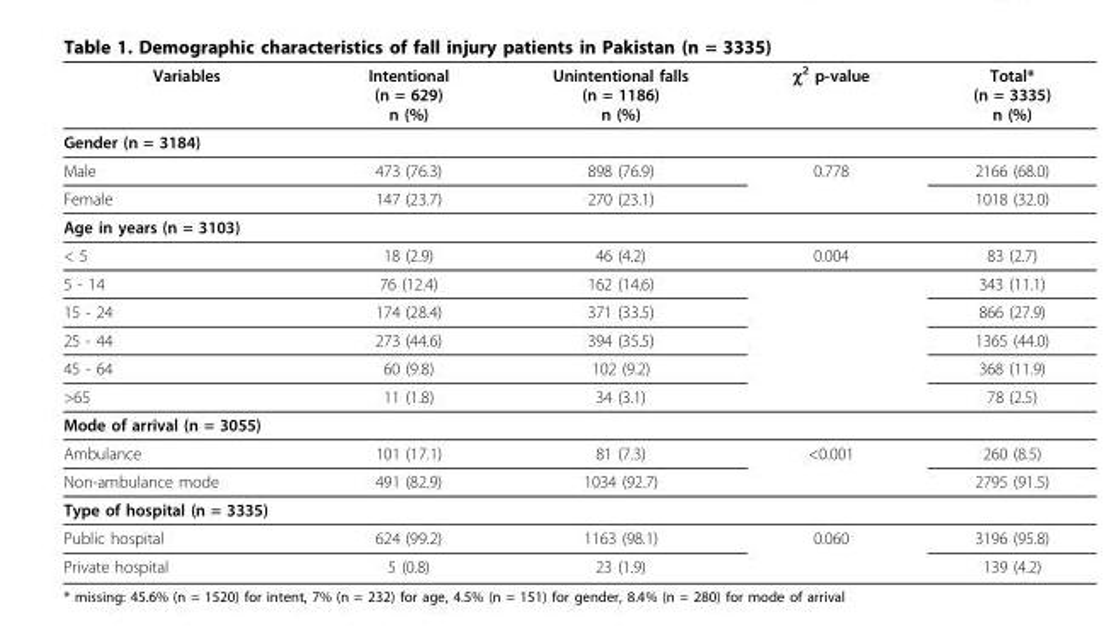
<table><thead><tr><td>Variables</td><td>Intentional (n = 629) n (%)</td><td>Unintentional falls (n = 1186) n (%)</td><td>χ<sup>2</sup> p-value</td><td>Total* (n = 3335) n (%)</td></tr></thead><tbody><tr><td colspan="5">Gender (n = 3184)</td></tr><tr><td>Male</td><td>473 (76.3)</td><td>898 (76.9)</td><td>0.778</td><td>2166 (68.0)</td></tr><tr><td>Female</td><td>147 (23.7)</td><td>270 (23.1)</td><td></td><td>1018 (32.0)</td></tr><tr><td colspan="5">Age in years (n = 3103)</td></tr><tr><td>&lt; 5</td><td>18 (2.9)</td><td>46 (4.2)</td><td>0.004</td><td>83 (2.7)</td></tr><tr><td>5 - 14</td><td>76 (12.4)</td><td>162 (14.6)</td><td></td><td>343 (11.1)</td></tr><tr><td>15 - 24</td><td>174 (28.4)</td><td>371 (33.5)</td><td></td><td>866 (27.9)</td></tr><tr><td>25 - 44</td><td>273 (44.6)</td><td>394 (35.5)</td><td></td><td>1365 (44.0)</td></tr><tr><td>45 - 64</td><td>60 (9.8)</td><td>102 (9.2)</td><td></td><td>368 (11.9)</td></tr><tr><td>&gt;65</td><td>11 (1.8)</td><td>34 (3.1)</td><td></td><td>78 (2.5)</td></tr><tr><td colspan="5">Mode of arrival (n = 3055)</td></tr><tr><td>Ambulance</td><td>101 (17.1)</td><td>81 (7.3)</td><td>&lt;0.001</td><td>260 (8.5)</td></tr><tr><td>Non-ambulance mode</td><td>491 (82.9)</td><td>1034 (92.7)</td><td></td><td>2795 (91.5)</td></tr><tr><td colspan="5">Type of hospital (n = 3335)</td></tr><tr><td>Public hospital</td><td>624 (99.2)</td><td>1163 (98.1)</td><td>0.060</td><td>3196 (95.8)</td></tr><tr><td>Private hospital</td><td>5 (0.8)</td><td>23 (1.9)</td><td></td><td>139 (4.2)</td></tr></tbody></table>